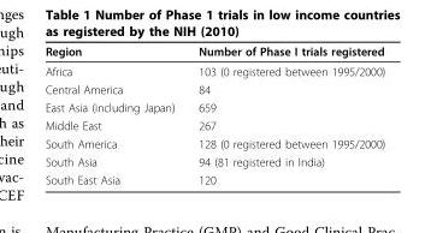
<table><thead><tr><td>Region</td><td>Number of Phase I trials registered</td></tr></thead><tbody><tr><td>Africa</td><td>103 (0 registered between 1995/2000)</td></tr><tr><td>Central America</td><td>84</td></tr><tr><td>East Asia (including Japan)</td><td>659</td></tr><tr><td>Middle East</td><td>267</td></tr><tr><td>South America</td><td>128 (0 registered between 1995/2000)</td></tr><tr><td>South Asia</td><td>94 (81 registered in India)</td></tr><tr><td>South East Asia</td><td>120</td></tr></tbody></table>